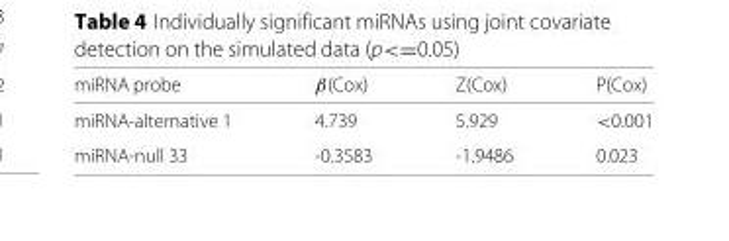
<table><thead><tr><td>miRNA probe</td><td>β(Cox)</td><td>Z(Cox)</td><td>P(Cox)</td></tr></thead><tbody><tr><td>miRNA-alternative 1</td><td>4.739</td><td>5.929</td><td>&lt;0.001</td></tr><tr><td>miRNA-null 33</td><td>-0.3583</td><td>-1.9486</td><td>0.023</td></tr></tbody></table>